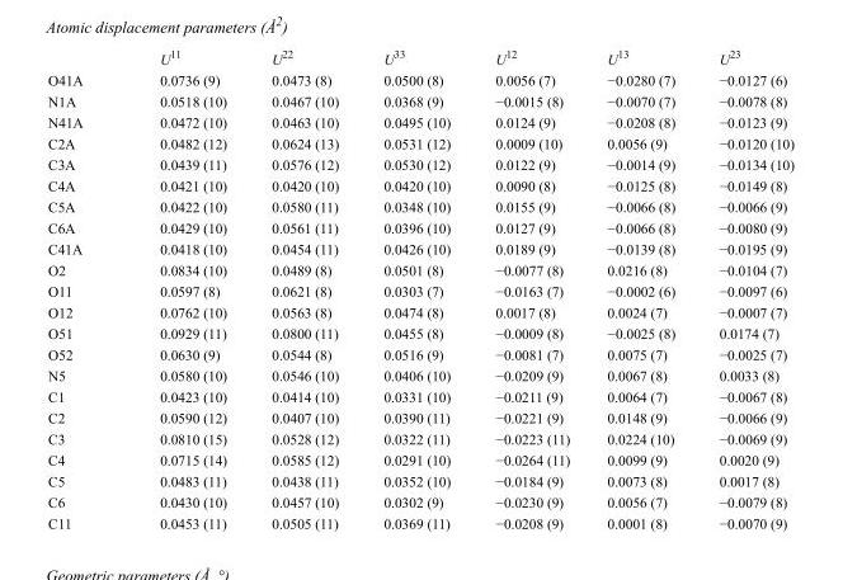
<table><thead><tr><td></td><td>U<sup>11</sup></td><td>U<sup>22</sup></td><td>U<sup>33</sup></td><td>U<sup>12</sup></td><td>U<sup>13</sup></td><td>U<sup>23</sup></td></tr></thead><tbody><tr><td>O41A</td><td>0.0736 (9)</td><td>0.0473 (8)</td><td>0.0500 (8)</td><td>0.0056 (7)</td><td>−0.0280 (7)</td><td>−0.0127 (6)</td></tr><tr><td>N1A</td><td>0.0518 (10)</td><td>0.0467 (10)</td><td>0.0368 (9)</td><td>−0.0015 (8)</td><td>−0.0070 (7)</td><td>−0.0078 (8)</td></tr><tr><td>N41A</td><td>0.0472 (10)</td><td>0.0463 (10)</td><td>0.0495 (10)</td><td>0.0124 (9)</td><td>−0.0208 (8)</td><td>−0.0123 (9)</td></tr><tr><td>C2A</td><td>0.0482 (12)</td><td>0.0624 (13)</td><td>0.0531 (12)</td><td>0.0009 (10)</td><td>0.0056 (9)</td><td>−0.0120 (10)</td></tr><tr><td>C3A</td><td>0.0439 (11)</td><td>0.0576 (12)</td><td>0.0530 (12)</td><td>0.0122 (9)</td><td>−0.0014 (9)</td><td>−0.0134 (10)</td></tr><tr><td>C4A</td><td>0.0421 (10)</td><td>0.0420 (10)</td><td>0.0420 (10)</td><td>0.0090 (8)</td><td>−0.0125 (8)</td><td>−0.0149 (8)</td></tr><tr><td>C5A</td><td>0.0422 (10)</td><td>0.0580 (11)</td><td>0.0348 (10)</td><td>0.0155 (9)</td><td>−0.0066 (8)</td><td>−0.0066 (9)</td></tr><tr><td>C6A</td><td>0.0429 (10)</td><td>0.0561 (11)</td><td>0.0396 (10)</td><td>0.0127 (9)</td><td>−0.0066 (8)</td><td>−0.0080 (9)</td></tr><tr><td>C41A</td><td>0.0418 (10)</td><td>0.0454 (11)</td><td>0.0426 (10)</td><td>0.0189 (9)</td><td>−0.0139 (8)</td><td>−0.0195 (9)</td></tr><tr><td>O2</td><td>0.0834 (10)</td><td>0.0489 (8)</td><td>0.0501 (8)</td><td>−0.0077 (8)</td><td>0.0216 (8)</td><td>−0.0104 (7)</td></tr><tr><td>O11</td><td>0.0597 (8)</td><td>0.0621 (8)</td><td>0.0303 (7)</td><td>−0.0163 (7)</td><td>−0.0002 (6)</td><td>−0.0097 (6)</td></tr><tr><td>O12</td><td>0.0762 (10)</td><td>0.0563 (8)</td><td>0.0474 (8)</td><td>0.0017 (8)</td><td>0.0024 (7)</td><td>−0.0007 (7)</td></tr><tr><td>O51</td><td>0.0929 (11)</td><td>0.0800 (11)</td><td>0.0455 (8)</td><td>−0.0009 (8)</td><td>−0.0025 (8)</td><td>0.0174 (7)</td></tr><tr><td>O52</td><td>0.0630 (9)</td><td>0.0544 (8)</td><td>0.0516 (9)</td><td>−0.0081 (7)</td><td>0.0075 (7)</td><td>−0.0025 (7)</td></tr><tr><td>N5</td><td>0.0580 (10)</td><td>0.0546 (10)</td><td>0.0406 (10)</td><td>−0.0209 (9)</td><td>0.0067 (8)</td><td>0.0033 (8)</td></tr><tr><td>C1</td><td>0.0423 (10)</td><td>0.0414 (10)</td><td>0.0331 (10)</td><td>−0.0211 (9)</td><td>0.0064 (7)</td><td>−0.0067 (8)</td></tr><tr><td>C2</td><td>0.0590 (12)</td><td>0.0407 (10)</td><td>0.0390 (11)</td><td>−0.0221 (9)</td><td>0.0148 (9)</td><td>−0.0066 (9)</td></tr><tr><td>C3</td><td>0.0810 (15)</td><td>0.0528 (12)</td><td>0.0322 (11)</td><td>−0.0223 (11)</td><td>0.0224 (10)</td><td>−0.0069 (9)</td></tr><tr><td>C4</td><td>0.0715 (14)</td><td>0.0585 (12)</td><td>0.0291 (10)</td><td>−0.0264 (11)</td><td>0.0099 (9)</td><td>0.0020 (9)</td></tr><tr><td>C5</td><td>0.0483 (11)</td><td>0.0438 (11)</td><td>0.0352 (10)</td><td>−0.0184 (9)</td><td>0.0073 (8)</td><td>0.0017 (8)</td></tr><tr><td>C6</td><td>0.0430 (10)</td><td>0.0457 (10)</td><td>0.0302 (9)</td><td>−0.0230 (9)</td><td>0.0056 (7)</td><td>−0.0079 (8)</td></tr><tr><td>C11</td><td>0.0453 (11)</td><td>0.0505 (11)</td><td>0.0369 (11)</td><td>−0.0208 (9)</td><td>0.0001 (8)</td><td>−0.0070 (9)</td></tr></tbody></table>